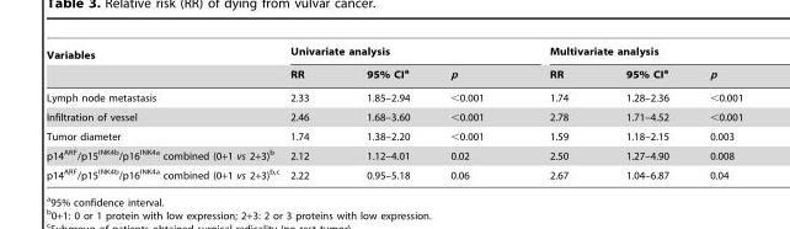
<table><thead><tr><td rowspan="2">Variables</td><td colspan="3">Univariate analysis</td><td colspan="3">Multivariate analysis</td></tr><tr><td>RR</td><td>95% CI<sup>a</sup></td><td>p</td><td>RR</td><td>95% CI<sup>a</sup></td><td>p</td></tr></thead><tbody><tr><td>Lymph node metastasis</td><td>2.33</td><td>1.85–2.94</td><td>&lt;0.001</td><td>1.74</td><td>1.28–2.36</td><td>&lt;0.001</td></tr><tr><td>Infiltration of vessel</td><td>2.46</td><td>1.68–3.60</td><td>&lt;0.001</td><td>2.78</td><td>1.71–4.52</td><td>&lt;0.001</td></tr><tr><td>Tumor diameter</td><td>1.74</td><td>1.38–2.20</td><td>&lt;0.001</td><td>1.59</td><td>1.18–2.15</td><td>0.003</td></tr><tr><td>p14<sup>ARF</sup>/p15<sup>INK4b</sup>/p16<sup>INK4a</sup> combined (0+1 vs 2+3)<sup>b</sup></td><td>2.12</td><td>1.12–4.01</td><td>0.02</td><td>2.50</td><td>1.27–4.90</td><td>0.008</td></tr><tr><td>p14<sup>ARF</sup>/p15<sup>INK4b</sup>/p16<sup>INK4a</sup> combined (0+1 vs 2+3)<sup>b,</sup>c</td><td>2.22</td><td>0.95–5.18</td><td>0.06</td><td>2.67</td><td>1.04–6.87</td><td>0.04</td></tr></tbody></table>